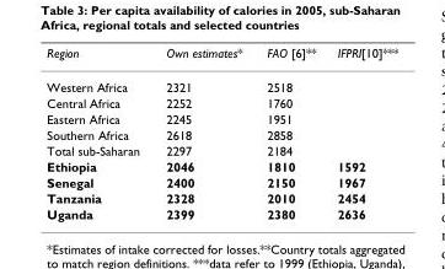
<table><thead><tr><td>Region</td><td>Own estimates*</td><td>FAO [6]**</td><td>IFPRI[10]***</td></tr></thead><tbody><tr><td>Western Africa</td><td>2321</td><td>2518</td><td></td></tr><tr><td>Central Africa</td><td>2252</td><td>1760</td><td></td></tr><tr><td>Eastern Africa</td><td>2245</td><td>1951</td><td></td></tr><tr><td>Southern Africa</td><td>2618</td><td>2858</td><td></td></tr><tr><td>Total sub-Saharan</td><td>2297</td><td>2184</td><td></td></tr><tr><td>Ethiopia</td><td>2046</td><td>1810</td><td>1592</td></tr><tr><td>Senegal</td><td>2400</td><td>2150</td><td>1967</td></tr><tr><td>Tanzania</td><td>2328</td><td>2010</td><td>2454</td></tr><tr><td>Uganda</td><td>2399</td><td>2380</td><td>2636</td></tr></tbody></table>